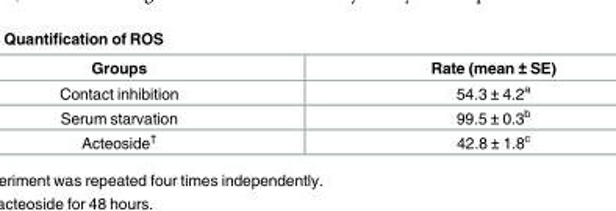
<table><thead><tr><td>Groups</td><td>Rate (mean ± SE)</td></tr></thead><tbody><tr><td>Contact inhibition</td><td>54.3 ± 4.2<sup>a</sup></td></tr><tr><td>Serum starvation</td><td>99.5 ± 0.3<sup>b</sup></td></tr><tr><td>Acteoside<sup>†</sup></td><td>42.8 ± 1.8<sup>c</sup></td></tr></tbody></table>